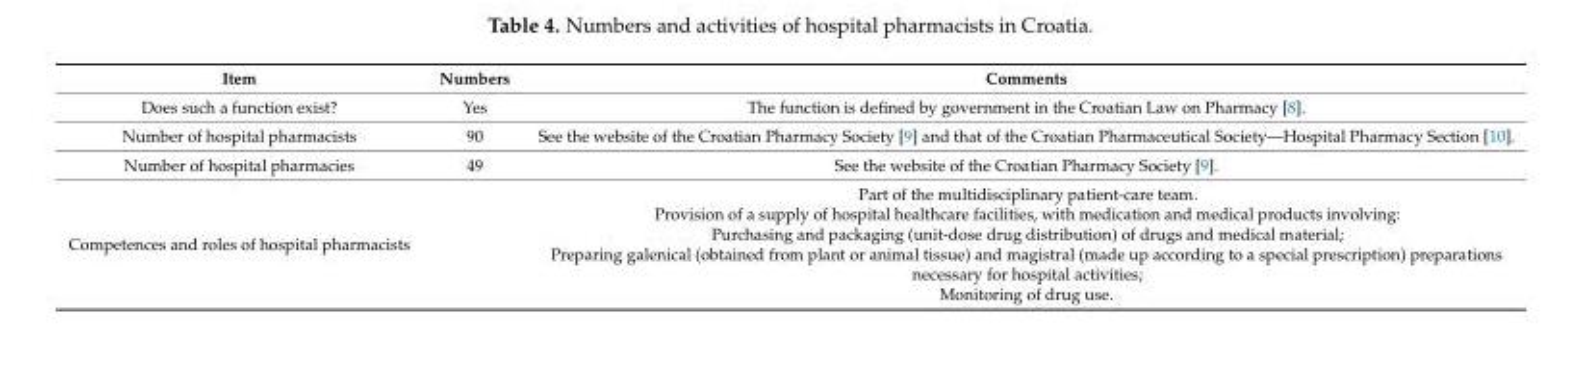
<table><thead><tr><td>Item</td><td>Numbers</td><td>Comments</td></tr></thead><tbody><tr><td>Does such a function exist?</td><td>Yes</td><td>The function is defined by government in the Croatian Law on Pharmacy [8].</td></tr><tr><td>Number of hospital pharmacists</td><td>90</td><td>See the website of the Croatian Pharmacy Society [9] and that of the Croatian Pharmaceutical Society—Hospital Pharmacy Section [10].</td></tr><tr><td>Number of hospital pharmacies</td><td>49</td><td>See the website of the Croatian Pharmacy Society [9].</td></tr><tr><td>Competences and roles of hospital pharmacists</td><td></td><td>Part of the multidisciplinary patient-care team. Provision of a supply of hospital healthcare facilities, with medication and medical products involving: Purchasing and packaging (unit-dose drug distribution) of drugs and medical material; Preparing galenical (obtained from plant or animal tissue) and magistral (made up according to a special prescription) preparations necessary for hospital activities; Monitoring of drug use.</td></tr></tbody></table>